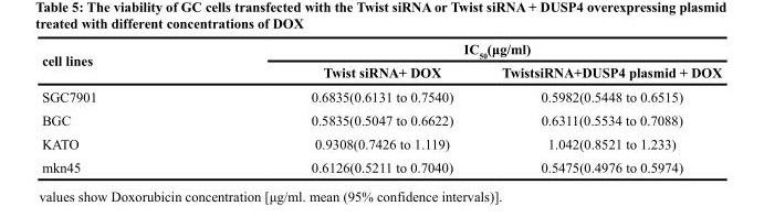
<table><thead><tr><td rowspan="2">cell lines</td><td colspan="2">IC<sub>50</sub>(μg/ml)</td></tr><tr><td>Twist siRNA+ DOX</td><td>TwistsiRNA+DUSP4 plasmid + DOX</td></tr></thead><tbody><tr><td>SGC7901</td><td>0.6835(0.6131 to 0.7540)</td><td>0.5982(0.5448 to 0.6515)</td></tr><tr><td>BGC</td><td>0.5835(0.5047 to 0.6622)</td><td>0.6311(0.5534 to 0.7088)</td></tr><tr><td>KATO</td><td>0.9308(0.7426 to 1.119)</td><td>1.042(0.8521 to 1.233)</td></tr><tr><td>mkn45</td><td>0.6126(0.5211 to 0.7040)</td><td>0.5475(0.4976 to 0.5974)</td></tr></tbody></table>